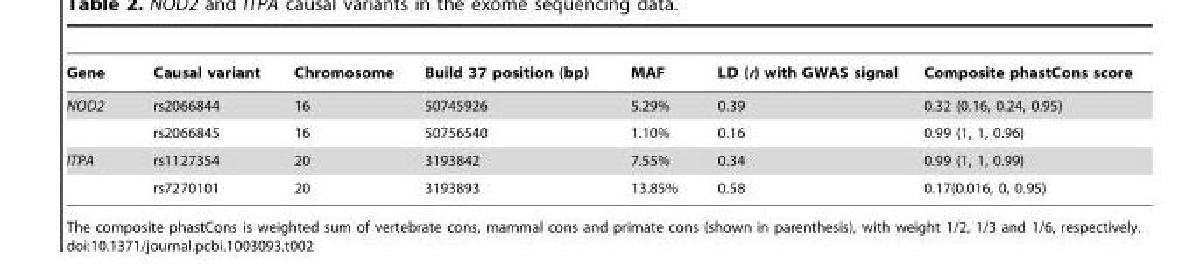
<table><thead><tr><td>Gene</td><td>Causal variant</td><td>Chromosome</td><td>Build 37 position (bp)</td><td>MAF</td><td>LD (r) with GWAS signal</td><td>Composite phastCons score</td></tr></thead><tbody><tr><td rowspan="2">NOD2</td><td>rs2066844</td><td>16</td><td>50745926</td><td>5.29%</td><td>0.39</td><td>0.32 (0.16, 0.24, 0.95)</td></tr><tr><td>rs2066845</td><td>16</td><td>50756540</td><td>1.10%</td><td>0.16</td><td>0.99 (1, 1, 0.96)</td></tr><tr><td rowspan="2">ITPA</td><td>rs1127354</td><td>20</td><td>3193842</td><td>7.55%</td><td>0.34</td><td>0.99 (1, 1, 0.99)</td></tr><tr><td>rs7270101</td><td>20</td><td>3193893</td><td>13.85%</td><td>0.58</td><td>0.17(0.016, 0, 0.95)</td></tr></tbody></table>